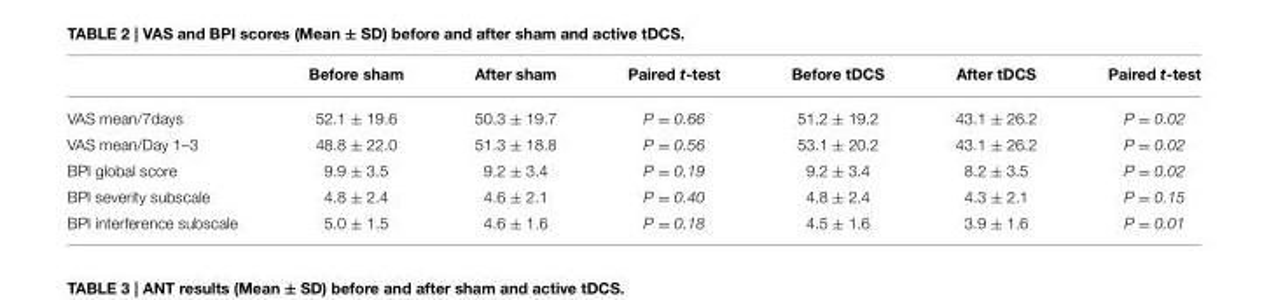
<table><thead><tr><td></td><td>Before sham</td><td>After sham</td><td>Paired t-test</td><td>Before tDCS</td><td>After tDCS</td><td>Paired t-test</td></tr></thead><tbody><tr><td>VAS mean/7days</td><td>52.1 ± 19.6</td><td>50.3 ± 19.7</td><td>P = 0.66</td><td>51.2 ± 19.2</td><td>43.1 ± 26.2</td><td>P = 0.02</td></tr><tr><td>VAS mean/Day 1–3</td><td>48.8 ± 22.0</td><td>51.3 ± 18.8</td><td>P = 0.56</td><td>53.1 ± 20.2</td><td>43.1 ± 26.2</td><td>P = 0.02</td></tr><tr><td>BPI global score</td><td>9.9 ± 3.5</td><td>9.2 ± 3.4</td><td>P = 0.19</td><td>9.2 ± 3.4</td><td>8.2 ± 3.5</td><td>P = 0.02</td></tr><tr><td>BPI severity subscale</td><td>4.8 ± 2.4</td><td>4.6 ± 2.1</td><td>P = 0.40</td><td>4.8 ± 2.4</td><td>4.3 ± 2.1</td><td>P = 0.15</td></tr><tr><td>BPI interference subscale</td><td>5.0 ± 1.5</td><td>4.6 ± 1.6</td><td>P = 0.18</td><td>4.5 ± 1.6</td><td>3.9 ± 1.6</td><td>P = 0.01</td></tr></tbody></table>